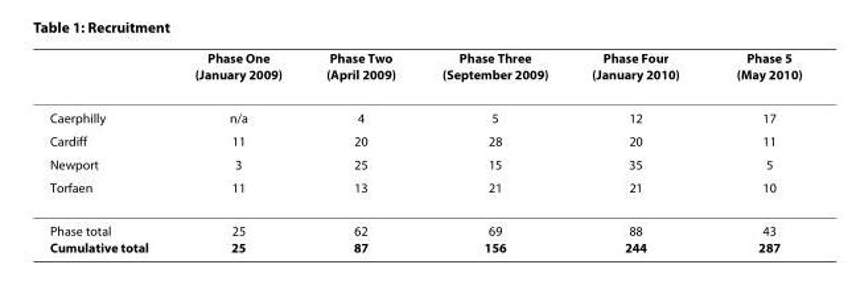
<table><thead><tr><td></td><td>Phase One (January 2009)</td><td>Phase Two (April 2009)</td><td>Phase Three (September 2009)</td><td>Phase Four (January 2010)</td><td>Phase 5 (May 2010)</td></tr></thead><tbody><tr><td>Caerphilly</td><td>n/a</td><td>4</td><td>5</td><td>12</td><td>17</td></tr><tr><td>Cardiff</td><td>11</td><td>20</td><td>28</td><td>20</td><td>11</td></tr><tr><td>Newport</td><td>3</td><td>25</td><td>15</td><td>35</td><td>5</td></tr><tr><td>Torfaen</td><td>11</td><td>13</td><td>21</td><td>21</td><td>10</td></tr><tr><td>Phase total Cumulative total</td><td>25 25</td><td>62 87</td><td>69 156</td><td>88 244</td><td>43 287</td></tr></tbody></table>